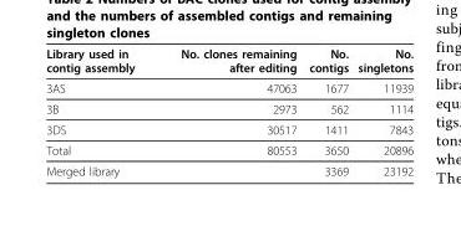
<table><thead><tr><td>Library used in contig assembly</td><td>No. clones remaining after editing</td><td>No. contigs</td><td>No. singletons</td></tr></thead><tbody><tr><td>3AS</td><td>47063</td><td>1677</td><td>11939</td></tr><tr><td>3B</td><td>2973</td><td>562</td><td>1114</td></tr><tr><td>3DS</td><td>30517</td><td>1411</td><td>7843</td></tr><tr><td>Total</td><td>80553</td><td>3650</td><td>20896</td></tr><tr><td>Merged library</td><td></td><td>3369</td><td>23192</td></tr></tbody></table>